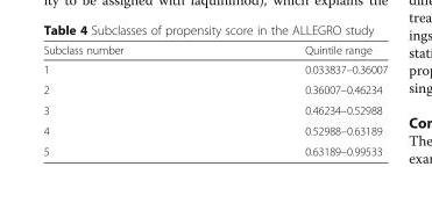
<table><thead><tr><td>Subclass number</td><td>Quintile range</td></tr></thead><tbody><tr><td>1</td><td>0.033837–0.36007</td></tr><tr><td>2</td><td>0.36007–0.46234</td></tr><tr><td>3</td><td>0.46234–0.52988</td></tr><tr><td>4</td><td>0.52988–0.63189</td></tr><tr><td>5</td><td>0.63189–0.99533</td></tr></tbody></table>